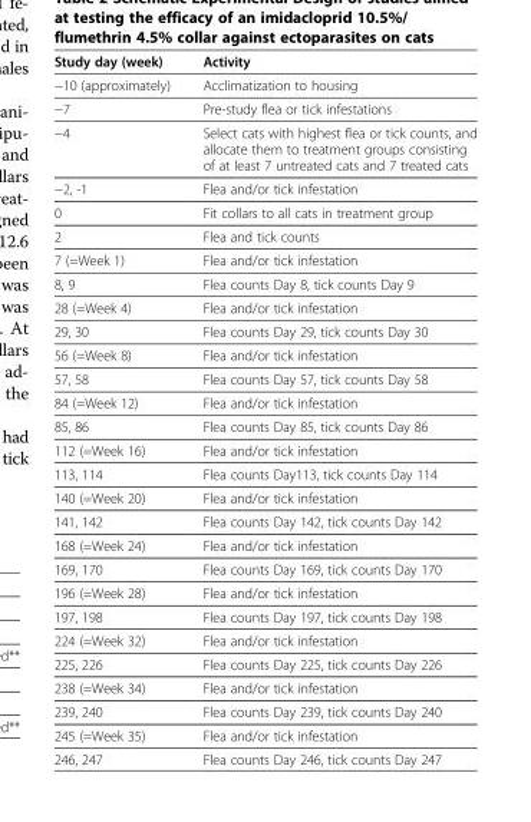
<table><thead><tr><td>Study day (week)</td><td>Activity</td></tr></thead><tbody><tr><td>−10 (approximately)</td><td>Acclimatization to housing</td></tr><tr><td>−7</td><td>Pre-study flea or tick infestations</td></tr><tr><td>−4</td><td>Select cats with highest flea or tick counts, and allocate them to treatment groups consisting of at least 7 untreated cats and 7 treated cats</td></tr><tr><td>−2, -1</td><td>Flea and/or tick infestation</td></tr><tr><td>0</td><td>Fit collars to all cats in treatment group</td></tr><tr><td>2</td><td>Flea and tick counts</td></tr><tr><td>7 (=Week 1)</td><td>Flea and/or tick infestation</td></tr><tr><td>8, 9</td><td>Flea counts Day 8, tick counts Day 9</td></tr><tr><td>28 (=Week 4)</td><td>Flea and/or tick infestation</td></tr><tr><td>29, 30</td><td>Flea counts Day 29, tick counts Day 30</td></tr><tr><td>56 (=Week 8)</td><td>Flea and/or tick infestation</td></tr><tr><td>57, 58</td><td>Flea counts Day 57, tick counts Day 58</td></tr><tr><td>84 (=Week 12)</td><td>Flea and/or tick infestation</td></tr><tr><td>85, 86</td><td>Flea counts Day 85, tick counts Day 86</td></tr><tr><td>112 (=Week 16)</td><td>Flea and/or tick infestation</td></tr><tr><td>113, 114</td><td>Flea counts Day113, tick counts Day 114</td></tr><tr><td>140 (=Week 20)</td><td>Flea and/or tick infestation</td></tr><tr><td>141, 142</td><td>Flea counts Day 142, tick counts Day 142</td></tr><tr><td>168 (=Week 24)</td><td>Flea and/or tick infestation</td></tr><tr><td>169, 170</td><td>Flea counts Day 169, tick counts Day 170</td></tr><tr><td>196 (=Week 28)</td><td>Flea and/or tick infestation</td></tr><tr><td>197, 198</td><td>Flea counts Day 197, tick counts Day 198</td></tr><tr><td>224 (=Week 32)</td><td>Flea and/or tick infestation</td></tr><tr><td>225, 226</td><td>Flea counts Day 225, tick counts Day 226</td></tr><tr><td>238 (=Week 34)</td><td>Flea and/or tick infestation</td></tr><tr><td>239, 240</td><td>Flea counts Day 239, tick counts Day 240</td></tr><tr><td>245 (=Week 35)</td><td>Flea and/or tick infestation</td></tr><tr><td>246, 247</td><td>Flea counts Day 246, tick counts Day 247</td></tr></tbody></table>